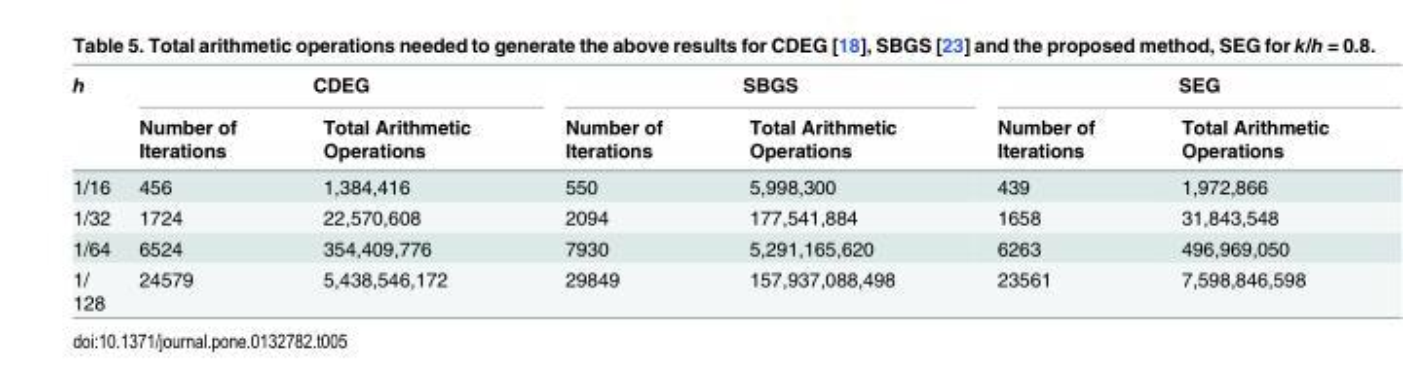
<table><thead><tr><td rowspan="2">h</td><td colspan="2">CDEG</td><td colspan="2">SBGS</td><td colspan="2">SEG</td></tr><tr><td>Number of Iterations</td><td>Total Arithmetic Operations</td><td>Number of Iterations</td><td>Total Arithmetic Operations</td><td>Number of Iterations</td><td>Total Arithmetic Operations</td></tr></thead><tbody><tr><td>1/16</td><td>456</td><td>1,384,416</td><td>550</td><td>5,998,300</td><td>439</td><td>1,972,866</td></tr><tr><td>1/32</td><td>1724</td><td>22,570,608</td><td>2094</td><td>177,541,884</td><td>1658</td><td>31,843,548</td></tr><tr><td>1/64</td><td>6524</td><td>354,409,776</td><td>7930</td><td>5,291,165,620</td><td>6263</td><td>496,969,050</td></tr><tr><td>1/ 128</td><td>24579</td><td>5,438,546,172</td><td>29849</td><td>157,937,088,498</td><td>23561</td><td>7,598,846,598</td></tr></tbody></table>